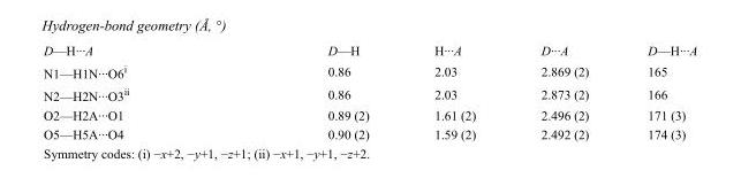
<table><tbody><tr><td>D—H···A</td><td>D—H</td><td>H···A</td><td>D···A</td><td>D—H···A</td></tr><tr><td>N1—H1N···O6<sup>i</sup></td><td>0.86</td><td>2.03</td><td>2.869 (2)</td><td>165</td></tr><tr><td>N2—H2N···O3<sup>ii</sup></td><td>0.86</td><td>2.03</td><td>2.873 (2)</td><td>166</td></tr><tr><td>O2—H2A···O1</td><td>0.89 (2)</td><td>1.61 (2)</td><td>2.496 (2)</td><td>171 (3)</td></tr><tr><td>O5—H5A···O4</td><td>0.90 (2)</td><td>1.59 (2)</td><td>2.492 (2)</td><td>174 (3)</td></tr></tbody></table>